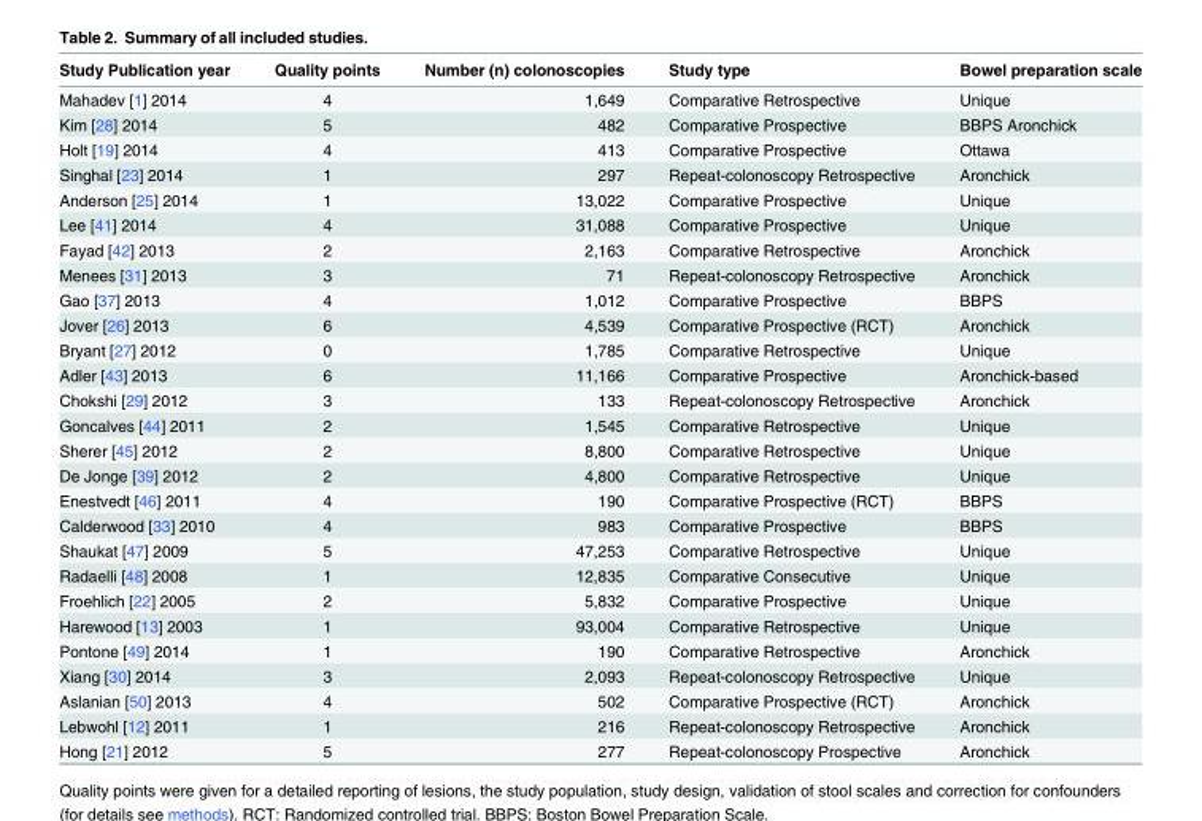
<table><thead><tr><td>Study Publication year</td><td>Quality points</td><td>Number (n) colonoscopies</td><td>Study type</td><td>Bowel preparation scale</td></tr></thead><tbody><tr><td>Mahadev [1] 2014</td><td>4</td><td>1,649</td><td>Comparative Retrospective</td><td>Unique</td></tr><tr><td>Kim [28] 2014</td><td>5</td><td>482</td><td>Comparative Prospective</td><td>BBPS Aronchick</td></tr><tr><td>Holt [19] 2014</td><td>4</td><td>413</td><td>Comparative Prospective</td><td>Ottawa</td></tr><tr><td>Singhal [23] 2014</td><td>1</td><td>297</td><td>Repeat-colonoscopy Retrospective</td><td>Aronchick</td></tr><tr><td>Anderson [25] 2014</td><td>1</td><td>13,022</td><td>Comparative Prospective</td><td>Unique</td></tr><tr><td>Lee [41] 2014</td><td>4</td><td>31,088</td><td>Comparative Prospective</td><td>Unique</td></tr><tr><td>Fayad [42] 2013</td><td>2</td><td>2,163</td><td>Comparative Retrospective</td><td>Aronchick</td></tr><tr><td>Menees [31] 2013</td><td>3</td><td>71</td><td>Repeat-colonoscopy Retrospective</td><td>Aronchick</td></tr><tr><td>Gao [37] 2013</td><td>4</td><td>1,012</td><td>Comparative Prospective</td><td>BBPS</td></tr><tr><td>Jover [26] 2013</td><td>6</td><td>4,539</td><td>Comparative Prospective (RCT)</td><td>Aronchick</td></tr><tr><td>Bryant [27] 2012</td><td>0</td><td>1,785</td><td>Comparative Retrospective</td><td>Unique</td></tr><tr><td>Adler [43] 2013</td><td>6</td><td>11,166</td><td>Comparative Prospective</td><td>Aronchick-based</td></tr><tr><td>Chokshi [29] 2012</td><td>3</td><td>133</td><td>Repeat-colonoscopy Retrospective</td><td>Aronchick</td></tr><tr><td>Goncalves [44] 2011</td><td>2</td><td>1,545</td><td>Comparative Retrospective</td><td>Unique</td></tr><tr><td>Sherer [45] 2012</td><td>2</td><td>8,800</td><td>Comparative Retrospective</td><td>Unique</td></tr><tr><td>De Jonge [39] 2012</td><td>2</td><td>4,800</td><td>Comparative Retrospective</td><td>Unique</td></tr><tr><td>Enestvedt [46] 2011</td><td>4</td><td>190</td><td>Comparative Prospective (RCT)</td><td>BBPS</td></tr><tr><td>Calderwood [33] 2010</td><td>4</td><td>983</td><td>Comparative Prospective</td><td>BBPS</td></tr><tr><td>Shaukat [47] 2009</td><td>5</td><td>47,253</td><td>Comparative Retrospective</td><td>Unique</td></tr><tr><td>Radaelli [48] 2008</td><td>1</td><td>12,835</td><td>Comparative Consecutive</td><td>Unique</td></tr><tr><td>Froehlich [22] 2005</td><td>2</td><td>5,832</td><td>Comparative Prospective</td><td>Unique</td></tr><tr><td>Harewood [13] 2003</td><td>1</td><td>93,004</td><td>Comparative Retrospective</td><td>Unique</td></tr><tr><td>Pontone [49] 2014</td><td>1</td><td>190</td><td>Comparative Retrospective</td><td>Aronchick</td></tr><tr><td>Xiang [30] 2014</td><td>3</td><td>2,093</td><td>Repeat-colonoscopy Retrospective</td><td>Unique</td></tr><tr><td>Aslanian [50] 2013</td><td>4</td><td>502</td><td>Comparative Prospective (RCT)</td><td>Aronchick</td></tr><tr><td>Lebwohl [12] 2011</td><td>1</td><td>216</td><td>Repeat-colonoscopy Retrospective</td><td>Aronchick</td></tr><tr><td>Hong [21] 2012</td><td>5</td><td>277</td><td>Repeat-colonoscopy Prospective</td><td>Aronchick</td></tr></tbody></table>